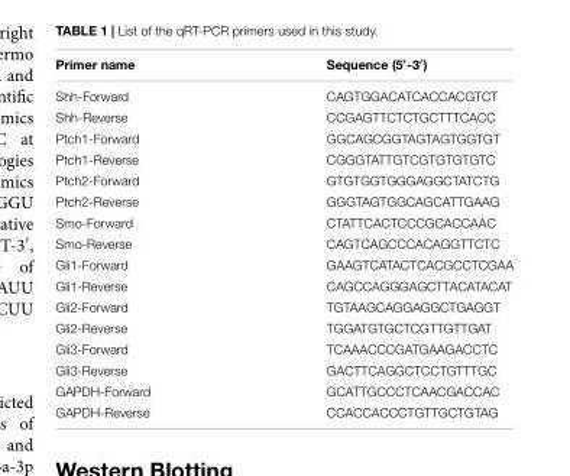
<table><thead><tr><td>Primer name</td><td>Sequence (5′-3′)</td></tr></thead><tbody><tr><td>Shh-Forward</td><td>CAGTGGACATCACCACGTCT</td></tr><tr><td>Shh-Reverse</td><td>CCGAGTTCTCTGCTTTCACC</td></tr><tr><td>Ptch1-Forward</td><td>GGCAGCGGTAGTAGTGGTGT</td></tr><tr><td>Ptch1-Reverse</td><td>CGGGTATTGTCGTGTGTGTC</td></tr><tr><td>Ptch2-Forward</td><td>GTGTGGTGGGAGGCTATCTG</td></tr><tr><td>Ptch2-Reverse</td><td>GGGTAGTGGCAGCATTGAAG</td></tr><tr><td>Smo-Forward</td><td>CTATTCACTCCCGCACCAAC</td></tr><tr><td>Smo-Reverse</td><td>CAGTCAGCCCACAGGTTCTC</td></tr><tr><td>Gli1-Forward</td><td>GAAGTCATACTCACGCCTCGAA</td></tr><tr><td>Gli1-Reverse</td><td>CAGCCAGGGAGCTTACATACAT</td></tr><tr><td>Gli2-Forward</td><td>TGTAAGCAGGAGGCTGAGGT</td></tr><tr><td>Gli2-Reverse</td><td>TGGATGTGCTCGTTGTTGAT</td></tr><tr><td>Gli3-Forward</td><td>TCAAACCCGATGAAGACCTC</td></tr><tr><td>Gli3-Reverse</td><td>GACTTCAGGCTCCTGTTTGC</td></tr><tr><td>GAPDH-Forward</td><td>GCATTGCCCTCAACGACCAC</td></tr><tr><td>GAPDH-Reverse</td><td>CCACCACCCTGTTGCTGTAG</td></tr></tbody></table>